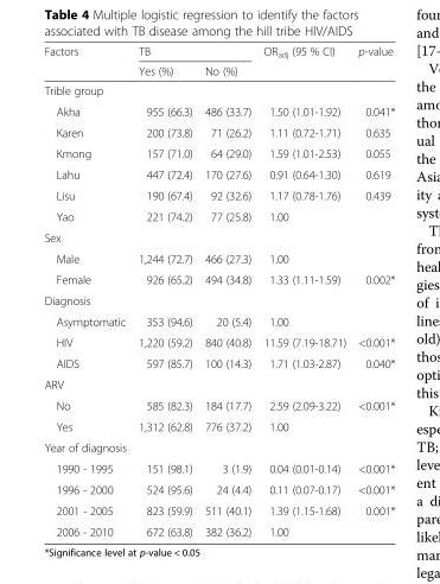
<table><thead><tr><td rowspan="2">Factors</td><td colspan="2">TB</td><td rowspan="2">OR<sub>adj</sub> (95 % CI)</td><td rowspan="2">p-value</td></tr><tr><td>Yes (%)</td><td>No (%)</td></tr></thead><tbody><tr><td colspan="5">Trible group</td></tr><tr><td>Akha</td><td>955 (66.3)</td><td>486 (33.7)</td><td>1.50 (1.01-1.92)</td><td>0.041*</td></tr><tr><td>Karen</td><td>200 (73.8)</td><td>71 (26.2)</td><td>1.11 (0.72-1.71)</td><td>0.635</td></tr><tr><td>Kmong</td><td>157 (71.0)</td><td>64 (29.0)</td><td>1.59 (1.01-2.53)</td><td>0.055</td></tr><tr><td>Lahu</td><td>447 (72.4)</td><td>170 (27.6)</td><td>0.91 (0.64-1.30)</td><td>0.619</td></tr><tr><td>Lisu</td><td>190 (67.4)</td><td>92 (32.6)</td><td>1.17 (0.78-1.76)</td><td>0.439</td></tr><tr><td>Yao</td><td>221 (74.2)</td><td>77 (25.8)</td><td>1.00</td><td></td></tr><tr><td colspan="5">Sex</td></tr><tr><td>Male</td><td>1,244 (72.7)</td><td>466 (27.3)</td><td>1.00</td><td></td></tr><tr><td>Female</td><td>926 (65.2)</td><td>494 (34.8)</td><td>1.33 (1.11-1.59)</td><td>0.002*</td></tr><tr><td colspan="5">Diagnosis</td></tr><tr><td>Asymptomatic</td><td>353 (94.6)</td><td>20 (5.4)</td><td>1.00</td><td></td></tr><tr><td>HIV</td><td>1,220 (59.2)</td><td>840 (40.8)</td><td>11.59 (7.19-18.71)</td><td>&lt;0.001*</td></tr><tr><td>AIDS</td><td>597 (85.7)</td><td>100 (14.3)</td><td>1.71 (1.03-2.87)</td><td>0.040*</td></tr><tr><td colspan="5">ARV</td></tr><tr><td>No</td><td>585 (82.3)</td><td>184 (17.7)</td><td>2.59 (2.09-3.22)</td><td>&lt;0.001*</td></tr><tr><td>Yes</td><td>1,312 (62.8)</td><td>776 (37.2)</td><td>1.00</td><td></td></tr><tr><td colspan="5">Year of diagnosis</td></tr><tr><td>1990 - 1995</td><td>151 (98.1)</td><td>3 (1.9)</td><td>0.04 (0.01-0.14)</td><td>&lt;0.001*</td></tr><tr><td>1996 - 2000</td><td>524 (95.6)</td><td>24 (4.4)</td><td>0.11 (0.07-0.17)</td><td>&lt;0.001*</td></tr><tr><td>2001 - 2005</td><td>823 (59.9)</td><td>511 (40.1)</td><td>1.39 (1.15-1.68)</td><td>0.001*</td></tr><tr><td>2006 - 2010</td><td>672 (63.8)</td><td>382 (36.2)</td><td>1.00</td><td></td></tr></tbody></table>